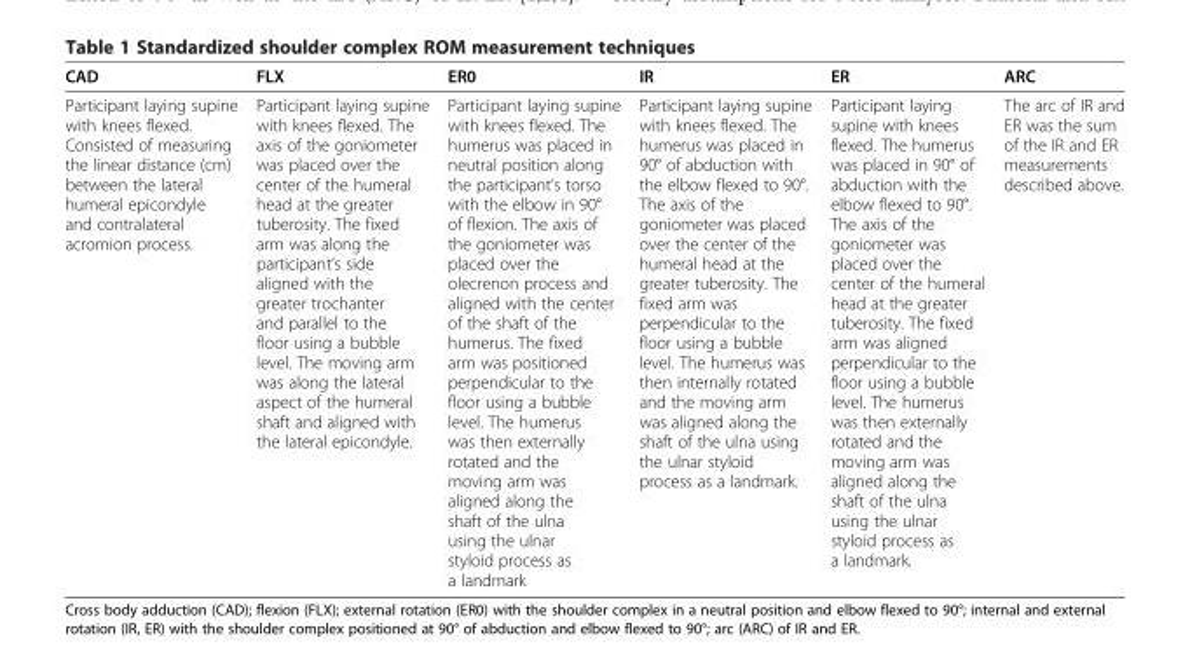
<table><thead><tr><td>CAD</td><td>FLX</td><td>ER0</td><td>IR</td><td>ER</td><td>ARC</td></tr></thead><tbody><tr><td>Participant laying supine with knees flexed. Consisted of measuring the linear distance (cm) between the lateral humeral epicondyle and contralateral acromion process.</td><td>Participant laying supine with knees flexed. The axis of the goniometer was placed over the center of the humeral head at the greater tuberosity. The fixed arm was along the participant’s side aligned with the greater trochanter and parallel to the floor using a bubble level. The moving arm was along the lateral aspect of the humeral shaft and aligned with the lateral epicondyle.</td><td>Participant laying supine with knees flexed. The humerus was placed in neutral position along the participant’s torso with the elbow in 90° of flexion. The axis of the goniometer was placed over the olecrenon process and aligned with the center of the shaft of the humerus. The fixed arm was positioned perpendicular to the floor using a bubble level. The humerus was then externally rotated and the moving arm was aligned along the shaft of the ulna using the ulnar styloid process as a landmark</td><td>Participant laying supine with knees flexed. The humerus was placed in 90° of abduction with the elbow flexed to 90°. The axis of the goniometer was placed over the center of the humeral head at the greater tuberosity. The fixed arm was perpendicular to the floor using a bubble level. The humerus was then internally rotated and the moving arm was aligned along the shaft of the ulna using the ulnar styloid process as a landmark.</td><td>Participant laying supine with knees flexed. The humerus was placed in 90° of abduction with the elbow flexed to 90°. The axis of the goniometer was placed over the center of the humeral head at the greater tuberosity. The fixed arm was aligned perpendicular to the floor using a bubble level. The humerus was then externally rotated and the moving arm was aligned along the shaft of the ulna using the ulnar styloid process as a landmark.</td><td>The arc of IR and ER was the sum of the IR and ER measurements described above.</td></tr></tbody></table>